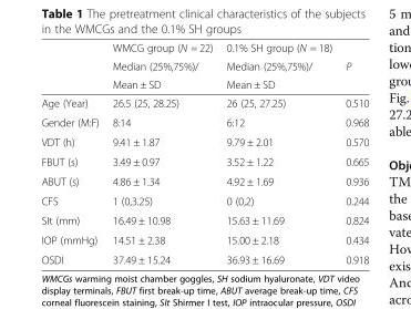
<table><thead><tr><td rowspan="3"></td><td rowspan="3">WMCG group (N = 22) Median (25%,75%)/ Mean ± SD</td><td rowspan="3">0.1% SH group (N = 18) Median (25%,75%)/ Mean ± SD</td><td rowspan="3">P</td></tr><tr></tr><tr></tr></thead><tbody><tr><td>Age (Year)</td><td>26.5 (25, 28.25)</td><td>26 (25, 27.25)</td><td>0.510</td></tr><tr><td>Gender (M:F)</td><td>8:14</td><td>6:12</td><td>0.968</td></tr><tr><td>VDT (h)</td><td>9.41 ± 1.87</td><td>9.79 ± 2.01</td><td>0.570</td></tr><tr><td>FBUT (s)</td><td>3.49 ± 0.97</td><td>3.52 ± 1.22</td><td>0.665</td></tr><tr><td>ABUT (s)</td><td>4.86 ± 1.34</td><td>4.92 ± 1.69</td><td>0.936</td></tr><tr><td>CFS</td><td>1 (0,3.25)</td><td>0 (0,2)</td><td>0.244</td></tr><tr><td>SIt (mm)</td><td>16.49 ± 10.98</td><td>15.63 ± 11.69</td><td>0.824</td></tr><tr><td>IOP (mmHg)</td><td>14.51 ± 2.38</td><td>15.00 ± 2.18</td><td>0.434</td></tr><tr><td>OSDI</td><td>37.49 ± 15.24</td><td>36.93 ± 16.69</td><td>0.918</td></tr></tbody></table>